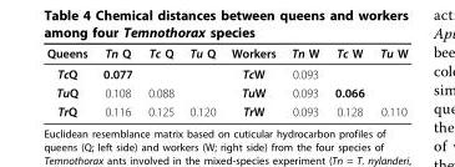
<table><thead><tr><td>Queens</td><td>Tn Q</td><td>Tc Q</td><td>Tu Q</td><td>Workers</td><td>Tn W</td><td>Tc W</td><td>Tu W</td></tr></thead><tbody><tr><td>TcQ</td><td>0.077</td><td></td><td></td><td>TcW</td><td>0.093</td><td></td><td></td></tr><tr><td>TuQ</td><td>0.108</td><td>0.088</td><td></td><td>TuW</td><td>0.093</td><td>0.066</td><td></td></tr><tr><td>TrQ</td><td>0.116</td><td>0.125</td><td>0.120</td><td>TrW</td><td>0.093</td><td>0.128</td><td>0.110</td></tr></tbody></table>